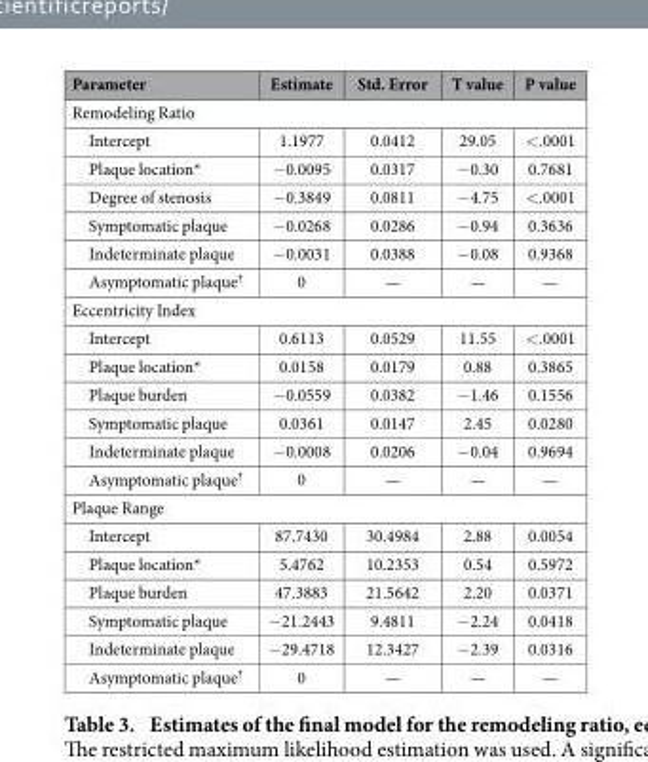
<table><thead><tr><td>Parameter</td><td>Estimate</td><td>Std. Error</td><td>T value</td><td>P value</td></tr></thead><tbody><tr><td colspan="5">Remodeling Ratio</td></tr><tr><td>Intercept</td><td>1.1977</td><td>0.0412</td><td>29.05</td><td>&lt; .0001</td></tr><tr><td>Plaque location*</td><td>− 0.0095</td><td>0.0317</td><td>− 0.30</td><td>0.7681</td></tr><tr><td>Degree of stenosis</td><td>− 0.3849</td><td>0.0811</td><td>− 4.75</td><td>&lt; .0001</td></tr><tr><td>Symptomatic plaque</td><td>− 0.0268</td><td>0.0286</td><td>− 0.94</td><td>0.3636</td></tr><tr><td>Indeterminate plaque</td><td>− 0.0031</td><td>0.0388</td><td>− 0.08</td><td>0.9368</td></tr><tr><td>Asymptomatic plaque<sup>†</sup></td><td>0</td><td>—</td><td>—</td><td>—</td></tr><tr><td colspan="5">Eccentricity Index</td></tr><tr><td>Intercept</td><td>0.6113</td><td>0.0529</td><td>11.55</td><td>&lt; .0001</td></tr><tr><td>Plaque location*</td><td>0.0158</td><td>0.0179</td><td>0.88</td><td>0.3865</td></tr><tr><td>Plaque burden</td><td>− 0.0559</td><td>0.0382</td><td>− 1.46</td><td>0.1556</td></tr><tr><td>Symptomatic plaque</td><td>0.0361</td><td>0.0147</td><td>2.45</td><td>0.0280</td></tr><tr><td>Indeterminate plaque</td><td>− 0.0008</td><td>0.0206</td><td>− 0.04</td><td>0.9694</td></tr><tr><td>Asymptomatic plaque<sup>†</sup></td><td>0</td><td>—</td><td>—</td><td>—</td></tr><tr><td colspan="5">Plaque Range</td></tr><tr><td>Intercept</td><td>87.7430</td><td>30.4984</td><td>2.88</td><td>0.0054</td></tr><tr><td>Plaque location*</td><td>5.4762</td><td>10.2353</td><td>0.54</td><td>0.5972</td></tr><tr><td>Plaque burden</td><td>47.3883</td><td>21.5642</td><td>2.20</td><td>0.0371</td></tr><tr><td>Symptomatic plaque</td><td>− 21.2443</td><td>9.4811</td><td>− 2.24</td><td>0.0418</td></tr><tr><td>Indeterminate plaque</td><td>− 29.4718</td><td>12.3427</td><td>− 2.39</td><td>0.0316</td></tr><tr><td>Asymptomatic plaque<sup>†</sup></td><td>0</td><td>—</td><td>—</td><td>—</td></tr></tbody></table>